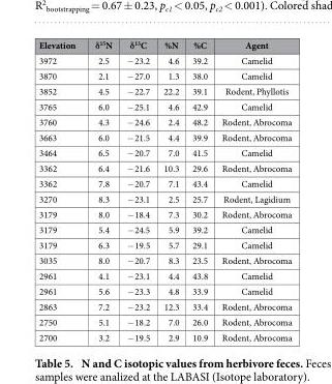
<table><thead><tr><td>Elevation</td><td>δ<sup>15</sup>N</td><td>δ<sup>13</sup>C</td><td>%N</td><td>%C</td><td>Agent</td></tr></thead><tbody><tr><td>3972</td><td>2.5</td><td>− 23.2</td><td>4.6</td><td>39.2</td><td>Camelid</td></tr><tr><td>3870</td><td>2.1</td><td>− 27.0</td><td>1.3</td><td>38.0</td><td>Camelid</td></tr><tr><td>3852</td><td>4.5</td><td>− 22.7</td><td>22.2</td><td>39.1</td><td>Rodent, Phyllotis</td></tr><tr><td>3765</td><td>6.0</td><td>− 25.1</td><td>4.6</td><td>42.9</td><td>Camelid</td></tr><tr><td>3760</td><td>4.3</td><td>− 24.6</td><td>2.4</td><td>48.2</td><td>Rodent, Abrocoma</td></tr><tr><td>3663</td><td>6.0</td><td>− 21.5</td><td>4.4</td><td>39.9</td><td>Rodent, Abrocoma</td></tr><tr><td>3464</td><td>6.5</td><td>− 20.7</td><td>7.0</td><td>41.5</td><td>Camelid</td></tr><tr><td>3362</td><td>6.4</td><td>− 21.6</td><td>10.3</td><td>29.6</td><td>Rodent, Abrocoma</td></tr><tr><td>3362</td><td>7.8</td><td>− 20.7</td><td>7.1</td><td>43.4</td><td>Camelid</td></tr><tr><td>3270</td><td>8.3</td><td>− 23.1</td><td>2.5</td><td>25.7</td><td>Rodent, Lagidium</td></tr><tr><td>3179</td><td>8.0</td><td>− 18.4</td><td>7.3</td><td>30.2</td><td>Rodent, Abrocoma</td></tr><tr><td>3179</td><td>5.4</td><td>− 24.5</td><td>5.9</td><td>39.2</td><td>Camelid</td></tr><tr><td>3179</td><td>6.3</td><td>− 19.5</td><td>5.7</td><td>29.1</td><td>Camelid</td></tr><tr><td>3035</td><td>8.0</td><td>− 20.7</td><td>8.3</td><td>23.5</td><td>Rodent, Abrocoma</td></tr><tr><td>2961</td><td>4.1</td><td>− 23.1</td><td>4.4</td><td>43.8</td><td>Camelid</td></tr><tr><td>2961</td><td>5.6</td><td>− 23.3</td><td>4.8</td><td>33.9</td><td>Camelid</td></tr><tr><td>2863</td><td>7.2</td><td>− 23.2</td><td>12.3</td><td>33.4</td><td>Rodent, Abrocoma</td></tr><tr><td>2750</td><td>5.1</td><td>− 18.2</td><td>7.0</td><td>26.0</td><td>Rodent, Abrocoma</td></tr><tr><td>2700</td><td>3.2</td><td>− 19.5</td><td>2.9</td><td>10.9</td><td>Rodent, Abrocoma</td></tr></tbody></table>